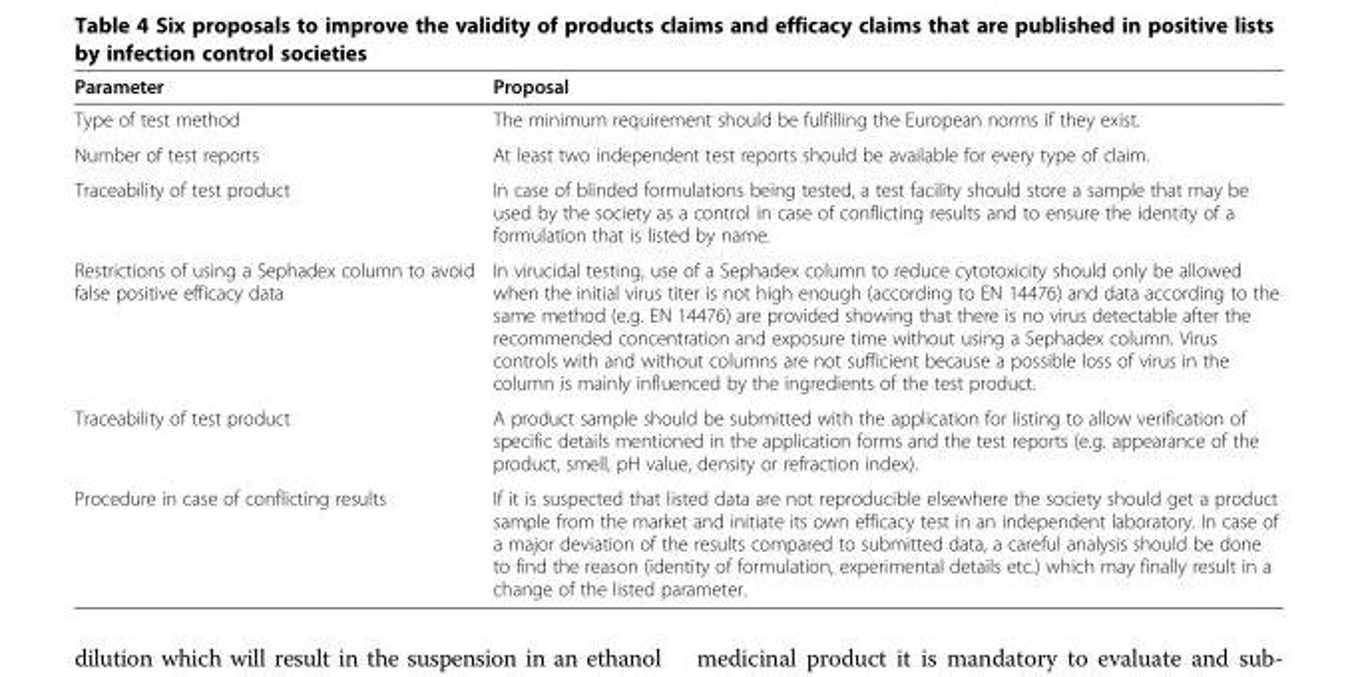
<table><thead><tr><td>Parameter</td><td>Proposal</td></tr></thead><tbody><tr><td>Type of test method</td><td>The minimum requirement should be fulfilling the European norms if they exist.</td></tr><tr><td>Number of test reports</td><td>At least two independent test reports should be available for every type of claim.</td></tr><tr><td>Traceability of test product</td><td>In case of blinded formulations being tested, a test facility should store a sample that may be used by the society as a control in case of conflicting results and to ensure the identity of a formulation that is listed by name.</td></tr><tr><td>Restrictions of using a Sephadex column to avoid false positive efficacy data</td><td>In virucidal testing, use of a Sephadex column to reduce cytotoxicity should only be allowed when the initial virus titer is not high enough (according to EN 14476) and data according to the same method (e.g. EN 14476) are provided showing that there is no virus detectable after the recommended concentration and exposure time without using a Sephadex column. Virus controls with and without columns are not sufficient because a possible loss of virus in the column is mainly influenced by the ingredients of the test product.</td></tr><tr><td>Traceability of test product</td><td>A product sample should be submitted with the application for listing to allow verification of specific details mentioned in the application forms and the test reports (e.g. appearance of the product, smell, pH value, density or refraction index).</td></tr><tr><td>Procedure in case of conflicting results</td><td>If it is suspected that listed data are not reproducible elsewhere the society should get a product sample from the market and initiate its own efficacy test in an independent laboratory. In case of a major deviation of the results compared to submitted data, a careful analysis should be done to find the reason (identity of formulation, experimental details etc.) which may finally result in a change of the listed parameter.</td></tr></tbody></table>